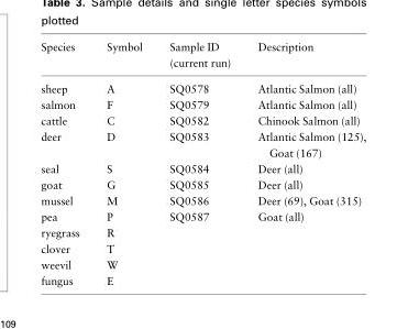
<table><thead><tr><td>Species</td><td>Symbol</td><td>Sample ID (current run)</td><td>Description</td></tr></thead><tbody><tr><td>sheep</td><td>A</td><td>SQ0578</td><td>Atlantic Salmon (all)</td></tr><tr><td>salmon</td><td>F</td><td>SQ0579</td><td>Atlantic Salmon (all)</td></tr><tr><td>cattle</td><td>C</td><td>SQ0582</td><td>Chinook Salmon (all)</td></tr><tr><td>deer</td><td>D</td><td>SQ0583</td><td>Atlantic Salmon (125), Goat (167)</td></tr><tr><td>seal</td><td>S</td><td>SQ0584</td><td>Deer (all)</td></tr><tr><td>goat</td><td>G</td><td>SQ0585</td><td>Deer (all)</td></tr><tr><td>mussel</td><td>M</td><td>SQ0586</td><td>Deer (69), Goat (315)</td></tr><tr><td>pea</td><td>P</td><td>SQ0587</td><td>Goat (all)</td></tr><tr><td>ryegrass</td><td>R</td><td></td><td></td></tr><tr><td>clover</td><td>T</td><td></td><td></td></tr><tr><td>weevil</td><td>W</td><td></td><td></td></tr><tr><td>fungus</td><td>E</td><td></td><td></td></tr></tbody></table>